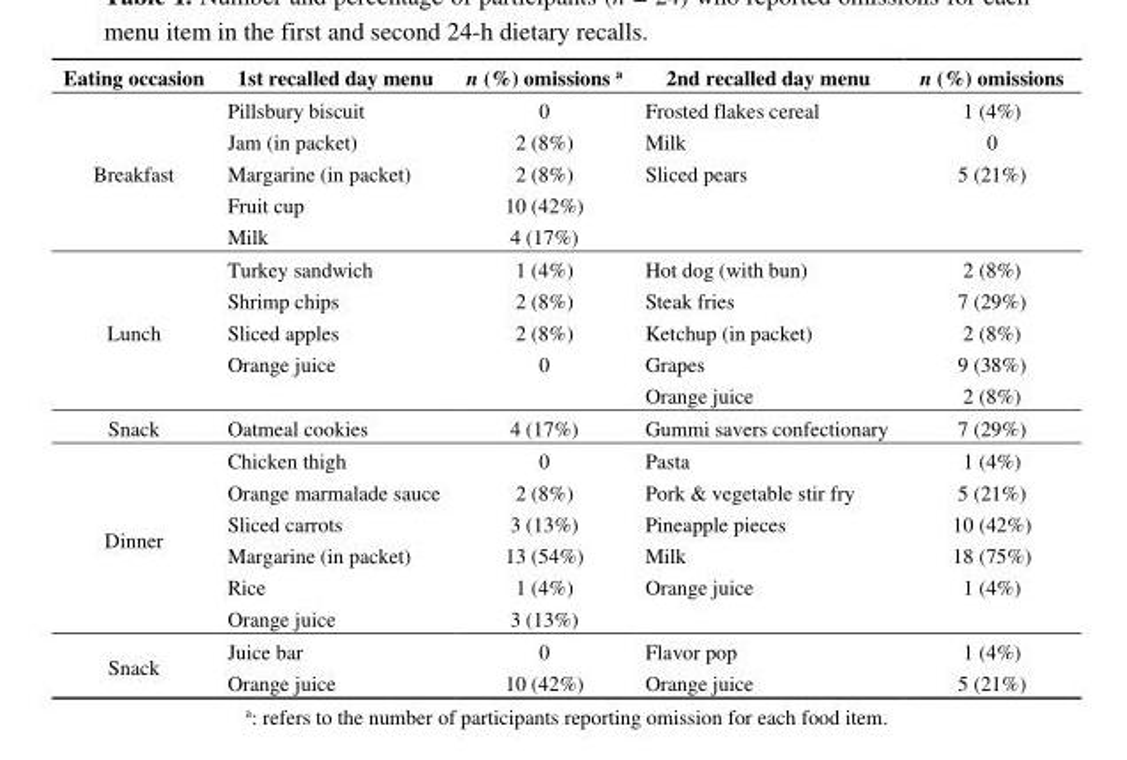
<table><thead><tr><td>Eating occasion</td><td>1st recalled day menu</td><td>n (%) omissions <sup>a</sup></td><td>2nd recalled day menu</td><td>n (%) omissions</td></tr></thead><tbody><tr><td rowspan="5">Breakfast</td><td>Pillsbury biscuit</td><td>0</td><td>Frosted flakes cereal</td><td>1 (4%)</td></tr><tr><td>Jam (in packet)</td><td>2 (8%)</td><td>Milk</td><td>0</td></tr><tr><td>Margarine (in packet)</td><td>2 (8%)</td><td>Sliced pears</td><td>5 (21%)</td></tr><tr><td>Fruit cup</td><td>10 (42%)</td><td></td><td></td></tr><tr><td>Milk</td><td>4 (17%)</td><td></td><td></td></tr><tr><td rowspan="5">Lunch</td><td>Turkey sandwich</td><td>1 (4%)</td><td>Hot dog (with bun)</td><td>2 (8%)</td></tr><tr><td>Shrimp chips</td><td>2 (8%)</td><td>Steak fries</td><td>7 (29%)</td></tr><tr><td>Sliced apples</td><td>2 (8%)</td><td>Ketchup (in packet)</td><td>2 (8%)</td></tr><tr><td>Orange juice</td><td>0</td><td>Grapes</td><td>9 (38%)</td></tr><tr><td></td><td></td><td>Orange juice</td><td>2 (8%)</td></tr><tr><td>Snack</td><td>Oatmeal cookies</td><td>4 (17%)</td><td>Gummi savers confectionary</td><td>7 (29%)</td></tr><tr><td rowspan="6">Dinner</td><td>Chicken thigh</td><td>0</td><td>Pasta</td><td>1 (4%)</td></tr><tr><td>Orange marmalade sauce</td><td>2 (8%)</td><td>Pork &amp; vegetable stir fry</td><td>5 (21%)</td></tr><tr><td>Sliced carrots</td><td>3 (13%)</td><td>Pineapple pieces</td><td>10 (42%)</td></tr><tr><td>Margarine (in packet)</td><td>13 (54%)</td><td>Milk</td><td>18 (75%)</td></tr><tr><td>Rice</td><td>1 (4%)</td><td>Orange juice</td><td>1 (4%)</td></tr><tr><td>Orange juice</td><td>3 (13%)</td><td></td><td></td></tr><tr><td rowspan="2">Snack</td><td>Juice bar</td><td>0</td><td>Flavor pop</td><td>1 (4%)</td></tr><tr><td>Orange juice</td><td>10 (42%)</td><td>Orange juice</td><td>5 (21%)</td></tr></tbody></table>